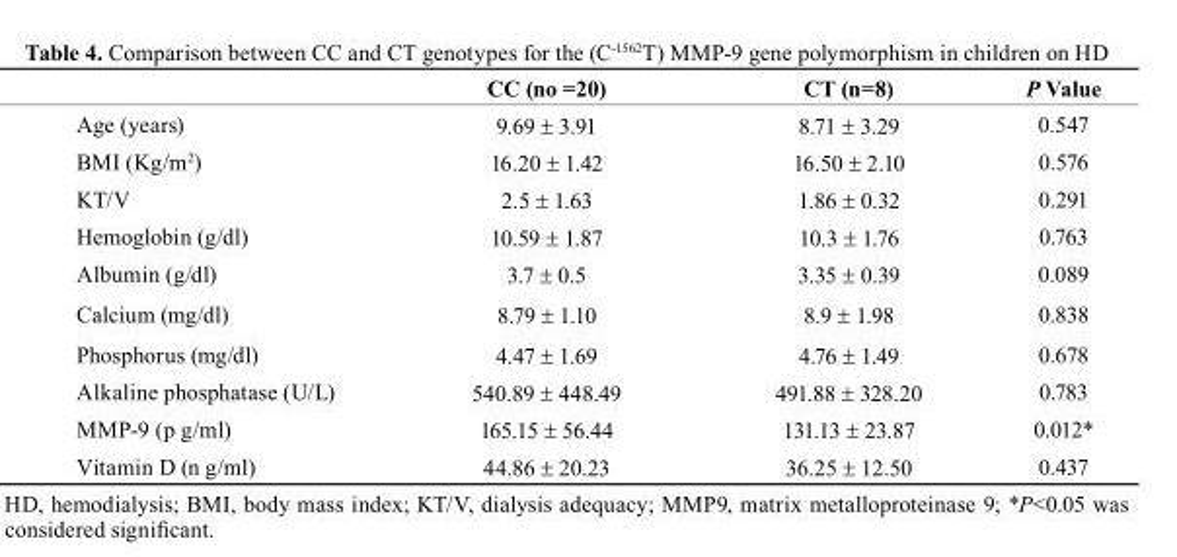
<table><thead><tr><td></td><td>CC (no =20)</td><td>CT (n=8)</td><td>P Value</td></tr></thead><tbody><tr><td>Age (years)</td><td>9.69 ± 3.91</td><td>8.71 ± 3.29</td><td>0.547</td></tr><tr><td>BMI (Kg/m<sup>2</sup>)</td><td>16.20 ± 1.42</td><td>16.50 ± 2.10</td><td>0.576</td></tr><tr><td>KT/V</td><td>2.5 ± 1.63</td><td>1.86 ± 0.32</td><td>0.291</td></tr><tr><td>Hemoglobin (g/dl)</td><td>10.59 ± 1.87</td><td>10.3 ± 1.76</td><td>0.763</td></tr><tr><td>Albumin (g/dl)</td><td>3.7 ± 0.5</td><td>3.35 ± 0.39</td><td>0.089</td></tr><tr><td>Calcium (mg/dl)</td><td>8.79 ± 1.10</td><td>8.9 ± 1.98</td><td>0.838</td></tr><tr><td>Phosphorus (mg/dl)</td><td>4.47 ± 1.69</td><td>4.76 ± 1.49</td><td>0.678</td></tr><tr><td>Alkaline phosphatase (U/L)</td><td>540.89 ± 448.49</td><td>491.88 ± 328.20</td><td>0.783</td></tr><tr><td>MMP-9 (p g/ml)</td><td>165.15 ± 56.44</td><td>131.13 ± 23.87</td><td>0.012*</td></tr><tr><td>Vitamin D (n g/ml)</td><td>44.86 ± 20.23</td><td>36.25 ± 12.50</td><td>0.437</td></tr></tbody></table>